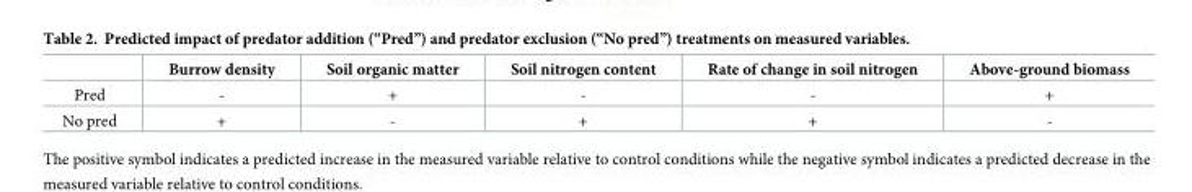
<table><thead><tr><td></td><td>Burrow density</td><td>Soil organic matter</td><td>Soil nitrogen content</td><td>Rate of change in soil nitrogen</td><td>Above-ground biomass</td></tr></thead><tbody><tr><td>Pred</td><td>-</td><td>+</td><td>-</td><td>-</td><td>+</td></tr><tr><td>No pred</td><td>+</td><td>-</td><td>+</td><td>+</td><td>-</td></tr></tbody></table>